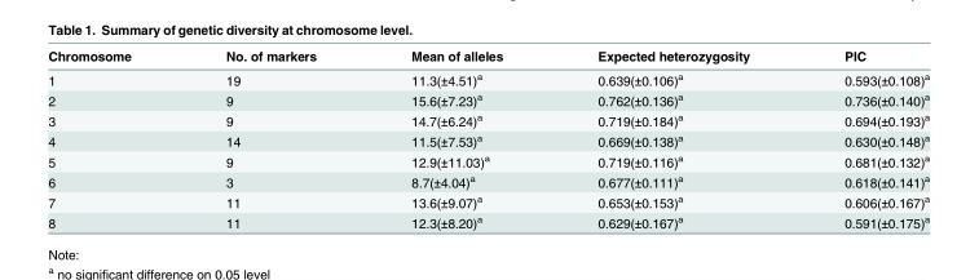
<table><thead><tr><td>Chromosome</td><td>No. of markers</td><td>Mean of alleles</td><td>Expected heterozygosity</td><td>PIC</td></tr></thead><tbody><tr><td>1</td><td>19</td><td>11.3(±4.51)<sup>a</sup></td><td>0.639(±0.106)<sup>a</sup></td><td>0.593(±0.108)<sup>a</sup></td></tr><tr><td>2</td><td>9</td><td>15.6(±7.23)<sup>a</sup></td><td>0.762(±0.136)<sup>a</sup></td><td>0.736(±0.140)<sup>a</sup></td></tr><tr><td>3</td><td>9</td><td>14.7(±6.24)<sup>a</sup></td><td>0.719(±0.184)<sup>a</sup></td><td>0.694(±0.193)<sup>a</sup></td></tr><tr><td>4</td><td>14</td><td>11.5(±7.53)<sup>a</sup></td><td>0.669(±0.138)<sup>a</sup></td><td>0.630(±0.148)<sup>a</sup></td></tr><tr><td>5</td><td>9</td><td>12.9(±11.03)<sup>a</sup></td><td>0.719(±0.116)<sup>a</sup></td><td>0.681(±0.132)<sup>a</sup></td></tr><tr><td>6</td><td>3</td><td>8.7(±4.04)<sup>a</sup></td><td>0.677(±0.111)<sup>a</sup></td><td>0.618(±0.141)<sup>a</sup></td></tr><tr><td>7</td><td>11</td><td>13.6(±9.07)<sup>a</sup></td><td>0.653(±0.153)<sup>a</sup></td><td>0.606(±0.167)<sup>a</sup></td></tr><tr><td>8</td><td>11</td><td>12.3(±8.20)<sup>a</sup></td><td>0.629(±0.167)<sup>a</sup></td><td>0.591(±0.175)<sup>a</sup></td></tr></tbody></table>